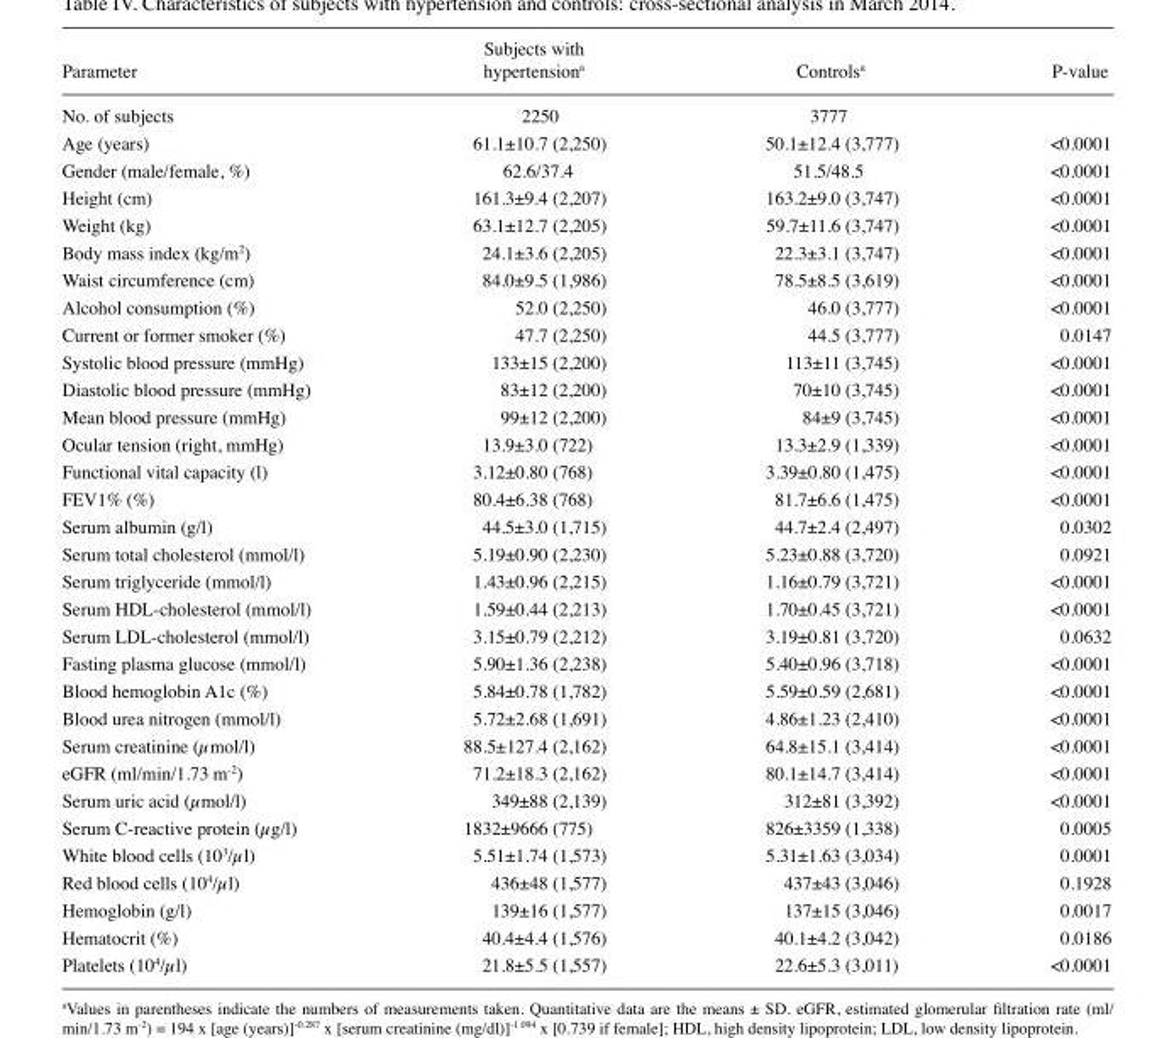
<table><thead><tr><td>Parameter</td><td>hypertensiona</td><td>Controls<sup>a</sup></td><td>P-value</td></tr></thead><tbody><tr><td>No. of subjects</td><td>2250</td><td>3777</td><td></td></tr><tr><td>Age (years)</td><td>61.1±10.7 (2,250)</td><td>50.1±12.4 (3,777)</td><td>&lt;0.0001</td></tr><tr><td>Gender (male/female, %)</td><td>62.6/37.4</td><td>51.5/48.5</td><td>&lt;0.0001</td></tr><tr><td>Height (cm)</td><td>161.3±9.4 (2,207)</td><td>163.2±9.0 (3,747)</td><td>&lt;0.0001</td></tr><tr><td>Weight (kg)</td><td>63.1±12.7 (2,205)</td><td>59.7±11.6 (3,747)</td><td>&lt;0.0001</td></tr><tr><td>Body mass index (kg/m<sup>2</sup>)</td><td>24.1±3.6 (2,205)</td><td>22.3±3.1 (3,747)</td><td>&lt;0.0001</td></tr><tr><td>Waist circumference (cm)</td><td>84.0±9.5 (1,986)</td><td>78.5±8.5 (3,619)</td><td>&lt;0.0001</td></tr><tr><td>Alcohol consumption (%)</td><td>52.0 (2,250)</td><td>46.0 (3,777)</td><td>&lt;0.0001</td></tr><tr><td>Current or former smoker (%)</td><td>47.7 (2,250)</td><td>44.5 (3,777)</td><td>0.0147</td></tr><tr><td>Systolic blood pressure (mmHg)</td><td>133±15 (2,200)</td><td>113±11 (3,745)</td><td>&lt;0.0001</td></tr><tr><td>Diastolic blood pressure (mmHg)</td><td>83±12 (2,200)</td><td>70±10 (3,745)</td><td>&lt;0.0001</td></tr><tr><td>Mean blood pressure (mmHg)</td><td>99±12 (2,200)</td><td>84±9 (3,745)</td><td>&lt;0.0001</td></tr><tr><td>Ocular tension (right, mmHg)</td><td>13.9±3.0 (722)</td><td>13.3±2.9 (1,339)</td><td>&lt;0.0001</td></tr><tr><td>Functional vital capacity (l)</td><td>3.12±0.80 (768)</td><td>3.39±0.80 (1,475)</td><td>&lt;0.0001</td></tr><tr><td>FEV1% (%)</td><td>80.4±6.38 (768)</td><td>81.7±6.6 (1,475)</td><td>&lt;0.0001</td></tr><tr><td>Serum albumin (g/l)</td><td>44.5±3.0 (1,715)</td><td>44.7±2.4 (2,497)</td><td>0.0302</td></tr><tr><td>Serum total cholesterol (mmol/l)</td><td>5.19±0.90 (2,230)</td><td>5.23±0.88 (3,720)</td><td>0.0921</td></tr><tr><td>Serum triglyceride (mmol/l)</td><td>1.43±0.96 (2,215)</td><td>1.16±0.79 (3,721)</td><td>&lt;0.0001</td></tr><tr><td>Serum HDL-cholesterol (mmol/l)</td><td>1.59±0.44 (2,213)</td><td>1.70±0.45 (3,721)</td><td>&lt;0.0001</td></tr><tr><td>Serum LDL-cholesterol (mmol/l)</td><td>3.15±0.79 (2,212)</td><td>3.19±0.81 (3,720)</td><td>0.0632</td></tr><tr><td>Fasting plasma glucose (mmol/l)</td><td>5.90±1.36 (2,238)</td><td>5.40±0.96 (3,718)</td><td>&lt;0.0001</td></tr><tr><td>Blood hemoglobin A1c (%)</td><td>5.84±0.78 (1,782)</td><td>5.59±0.59 (2,681)</td><td>&lt;0.0001</td></tr><tr><td>Blood urea nitrogen (mmol/l)</td><td>5.72±2.68 (1,691)</td><td>4.86±1.23 (2,410)</td><td>&lt;0.0001</td></tr><tr><td>Serum creatinine (µmol/l)</td><td>88.5±127.4 (2,162)</td><td>64.8±15.1 (3,414)</td><td>&lt;0.0001</td></tr><tr><td>eGFR (ml/min/1.73 m<sup>-2</sup>)</td><td>71.2±18.3 (2,162)</td><td>80.1±14.7 (3,414)</td><td>&lt;0.0001</td></tr><tr><td>Serum uric acid (µmol/l)</td><td>349±88 (2,139)</td><td>312±81 (3,392)</td><td>&lt;0.0001</td></tr><tr><td>Serum C-reactive protein (µg/l)</td><td>1832±9666 (775)</td><td>826±3359 (1,338)</td><td>0.0005</td></tr><tr><td>White blood cells (10<sup>3</sup>/µl)</td><td>5.51±1.74 (1,573)</td><td>5.31±1.63 (3,034)</td><td>0.0001</td></tr><tr><td>Red blood cells (10<sup>4</sup>/µl)</td><td>436±48 (1,577)</td><td>437±43 (3,046)</td><td>0.1928</td></tr><tr><td>Hemoglobin (g/l)</td><td>139±16 (1,577)</td><td>137±15 (3,046)</td><td>0.0017</td></tr><tr><td>Hematocrit (%)</td><td>40.4±4.4 (1,576)</td><td>40.1±4.2 (3,042)</td><td>0.0186</td></tr><tr><td>Platelets (10<sup>4</sup>/µl)</td><td>21.8±5.5 (1,557)</td><td>22.6±5.3 (3,011)</td><td>&lt;0.0001</td></tr></tbody></table>